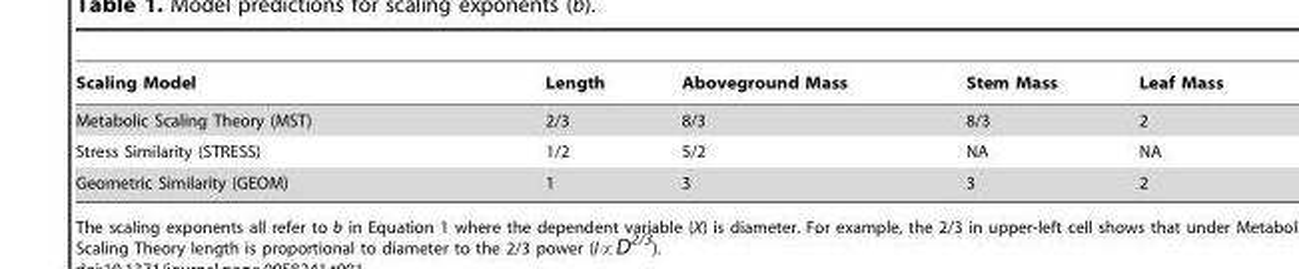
<table><thead><tr><td>Scaling Model</td><td>Length</td><td>Aboveground Mass</td><td>Stem Mass</td><td>Leaf Mass</td></tr></thead><tbody><tr><td>Metabolic Scaling Theory (MST)</td><td>2/3</td><td>8/3</td><td>8/3</td><td>2</td></tr><tr><td>Stress Similarity (STRESS)</td><td>1/2</td><td>5/2</td><td>NA</td><td>NA</td></tr><tr><td>Geometric Similarity (GEOM)</td><td>1</td><td>3</td><td>3</td><td>2</td></tr></tbody></table>